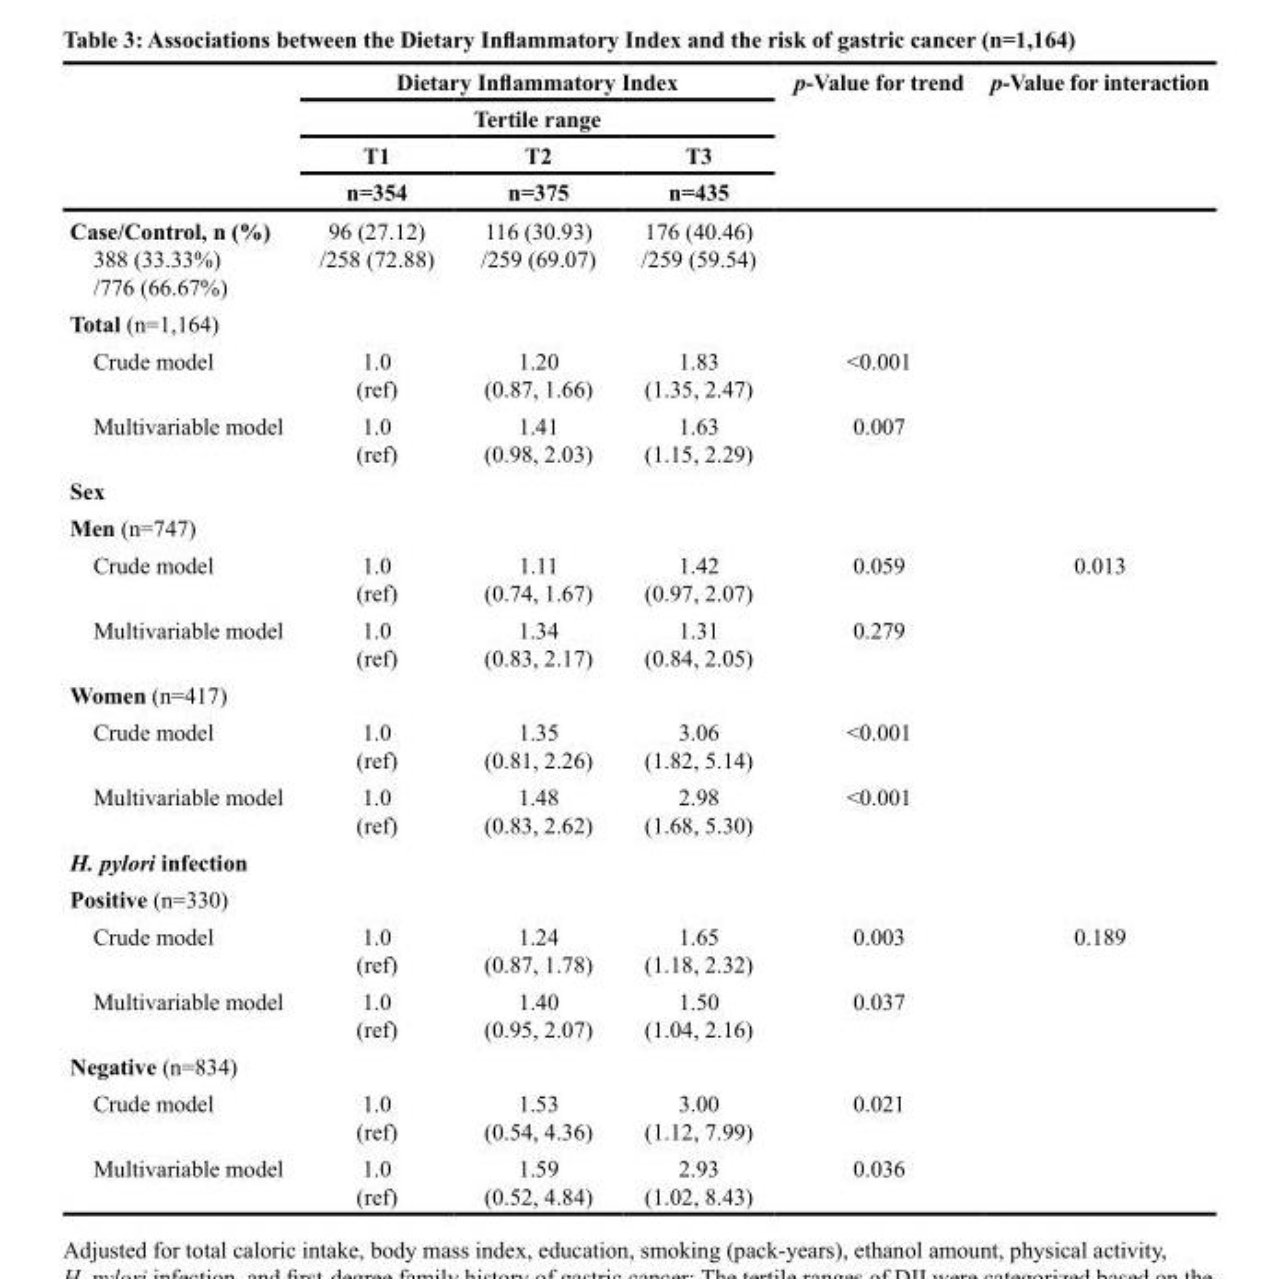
<table><thead><tr><td rowspan="4"></td><td rowspan="2" colspan="3">Dietary Inflammatory Index Tertile range</td><td rowspan="4">p-Value for trend</td><td rowspan="4">p-Value for interaction</td></tr><tr></tr><tr><td rowspan="2">T1 n=354</td><td rowspan="2">T2 n=375</td><td rowspan="2">T3 n=435</td></tr><tr></tr></thead><tbody><tr><td>Case/Control, n (%) 388 (33.33%) /776 (66.67%)</td><td>96 (27.12) /258 (72.88)</td><td>116 (30.93) /259 (69.07)</td><td>176 (40.46) /259 (59.54)</td><td></td><td></td></tr><tr><td colspan="6">Total (n=1,164)</td></tr><tr><td>Crude model</td><td>1.0 (ref)</td><td>1.20 (0.87, 1.66)</td><td>1.83 (1.35, 2.47)</td><td>&lt;0.001</td><td></td></tr><tr><td>Multivariable model</td><td>1.0 (ref)</td><td>1.41 (0.98, 2.03)</td><td>1.63 (1.15, 2.29)</td><td>0.007</td><td></td></tr><tr><td colspan="6">Sex</td></tr><tr><td colspan="6">Men (n=747)</td></tr><tr><td>Crude model</td><td>1.0 (ref)</td><td>1.11 (0.74, 1.67)</td><td>1.42 (0.97, 2.07)</td><td>0.059</td><td rowspan="2">0.013</td></tr><tr><td>Multivariable model</td><td>1.0 (ref)</td><td>1.34 (0.83, 2.17)</td><td>1.31 (0.84, 2.05)</td><td>0.279</td></tr><tr><td colspan="6">Women (n=417)</td></tr><tr><td>Crude model</td><td>1.0 (ref)</td><td>1.35 (0.81, 2.26)</td><td>3.06 (1.82, 5.14)</td><td>&lt;0.001</td><td></td></tr><tr><td>Multivariable model</td><td>1.0 (ref)</td><td>1.48 (0.83, 2.62)</td><td>2.98 (1.68, 5.30)</td><td>&lt;0.001</td><td></td></tr><tr><td colspan="6">H. pylori infection</td></tr><tr><td colspan="6">Positive (n=330)</td></tr><tr><td>Crude model</td><td>1.0 (ref)</td><td>1.24 (0.87, 1.78)</td><td>1.65 (1.18, 2.32)</td><td>0.003</td><td rowspan="2">0.189</td></tr><tr><td>Multivariable model</td><td>1.0 (ref)</td><td>1.40 (0.95, 2.07)</td><td>1.50 (1.04, 2.16)</td><td>0.037</td></tr><tr><td colspan="6">Negative (n=834)</td></tr><tr><td>Crude model</td><td>1.0 (ref)</td><td>1.53 (0.54, 4.36)</td><td>3.00 (1.12, 7.99)</td><td>0.021</td><td></td></tr><tr><td>Multivariable model</td><td>1.0 (ref)</td><td>1.59 (0.52, 4.84)</td><td>2.93 (1.02, 8.43)</td><td>0.036</td><td></td></tr></tbody></table>